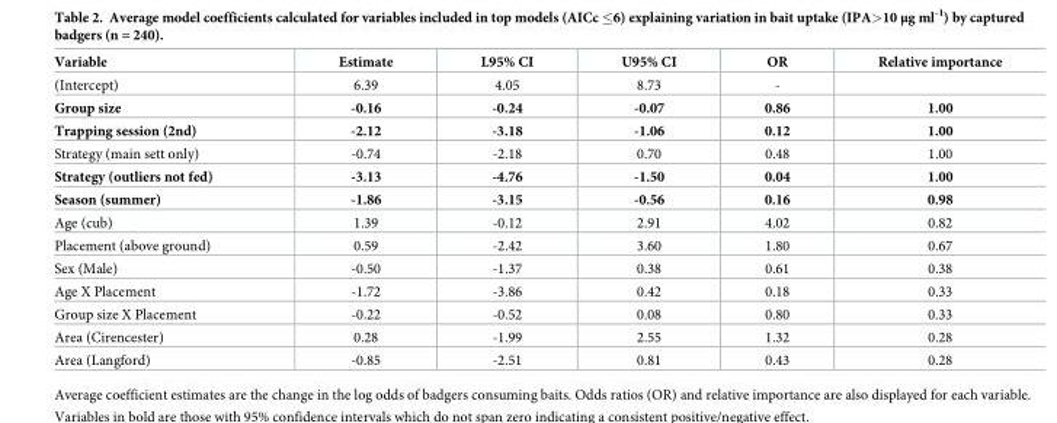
<table><thead><tr><td>Variable</td><td>Estimate</td><td>L95% CI</td><td>U95% CI</td><td>OR</td><td>Relative importance</td></tr></thead><tbody><tr><td>(Intercept)</td><td>6.39</td><td>4.05</td><td>8.73</td><td>-</td><td></td></tr><tr><td>Group size</td><td>-0.16</td><td>-0.24</td><td>-0.07</td><td>0.86</td><td>1.00</td></tr><tr><td>Trapping session (2nd)</td><td>-2.12</td><td>-3.18</td><td>-1.06</td><td>0.12</td><td>1.00</td></tr><tr><td>Strategy (main sett only)</td><td>-0.74</td><td>-2.18</td><td>0.70</td><td>0.48</td><td>1.00</td></tr><tr><td>Strategy (outliers not fed)</td><td>-3.13</td><td>-4.76</td><td>-1.50</td><td>0.04</td><td>1.00</td></tr><tr><td>Season (summer)</td><td>-1.86</td><td>-3.15</td><td>-0.56</td><td>0.16</td><td>0.98</td></tr><tr><td>Age (cub)</td><td>1.39</td><td>-0.12</td><td>2.91</td><td>4.02</td><td>0.82</td></tr><tr><td>Placement (above ground)</td><td>0.59</td><td>-2.42</td><td>3.60</td><td>1.80</td><td>0.67</td></tr><tr><td>Sex (Male)</td><td>-0.50</td><td>-1.37</td><td>0.38</td><td>0.61</td><td>0.38</td></tr><tr><td>Age X Placement</td><td>-1.72</td><td>-3.86</td><td>0.42</td><td>0.18</td><td>0.33</td></tr><tr><td>Group size X Placement</td><td>-0.22</td><td>-0.52</td><td>0.08</td><td>0.80</td><td>0.33</td></tr><tr><td>Area (Cirencester)</td><td>0.28</td><td>-1.99</td><td>2.55</td><td>1.32</td><td>0.28</td></tr><tr><td>Area (Langford)</td><td>-0.85</td><td>-2.51</td><td>0.81</td><td>0.43</td><td>0.28</td></tr></tbody></table>